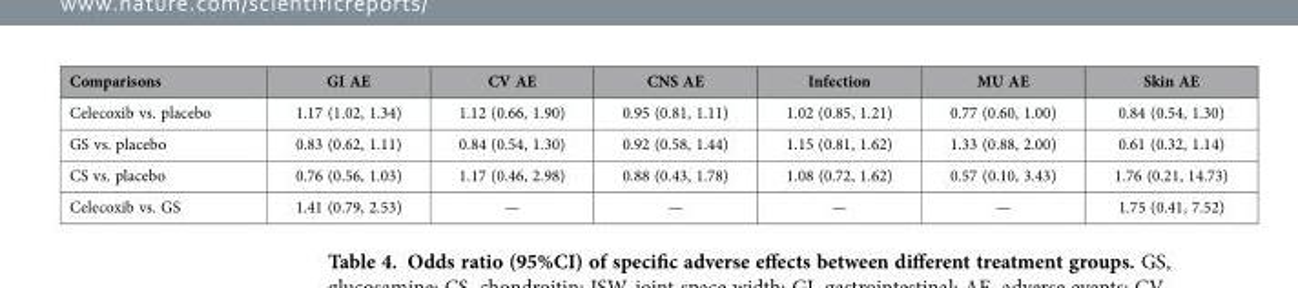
<table><thead><tr><td>Comparisons</td><td>GI AE</td><td>CV AE</td><td>CNS AE</td><td>Infection</td><td>MU AE</td><td>Skin AE</td></tr></thead><tbody><tr><td>Celecoxib vs. placebo</td><td>1.17 (1.02, 1.34)</td><td>1.12 (0.66, 1.90)</td><td>0.95 (0.81, 1.11)</td><td>1.02 (0.85, 1.21)</td><td>0.77 (0.60, 1.00)</td><td>0.84 (0.54, 1.30)</td></tr><tr><td>GS vs. placebo</td><td>0.83 (0.62, 1.11)</td><td>0.84 (0.54, 1.30)</td><td>0.92 (0.58, 1.44)</td><td>1.15 (0.81, 1.62)</td><td>1.33 (0.88, 2.00)</td><td>0.61 (0.32, 1.14)</td></tr><tr><td>CS vs. placebo</td><td>0.76 (0.56, 1.03)</td><td>1.17 (0.46, 2.98)</td><td>0.88 (0.43, 1.78)</td><td>1.08 (0.72, 1.62)</td><td>0.57 (0.10, 3.43)</td><td>1.76 (0.21, 14.73)</td></tr><tr><td>Celecoxib vs. GS</td><td>1.41 (0.79, 2.53)</td><td>—</td><td>—</td><td>—</td><td>—</td><td>1.75 (0.41, 7.52)</td></tr></tbody></table>